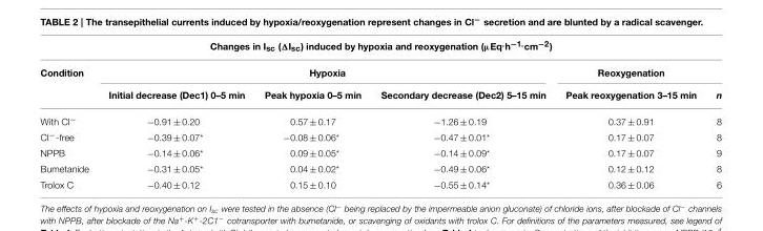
<table><thead><tr><td colspan="6">Changes in Isc (ΔIsc) induced by hypoxia and reoxygenation (µEq.h−1.cm−2)</td></tr><tr><td rowspan="2">Condition</td><td colspan="3">Hypoxia</td><td colspan="2">Reoxygenation</td></tr><tr><td>Initial decrease (Dec1) 0–5 min</td><td>Peak hypoxia 0–5 min</td><td>Secondary decrease (Dec2) 5–15 min</td><td>Peak reoxygenation 3–15 min</td><td>n</td></tr></thead><tbody><tr><td>With Cl<sup>−</sup></td><td>−0.91 ± 0.20</td><td>0.57 ± 0.17</td><td>−1.26 ± 0.19</td><td>0.37 ± 0.91</td><td>8</td></tr><tr><td>Cl<sup>−</sup>-free</td><td>−0.39 ± 0.07*</td><td>−0.08 ± 0.06*</td><td>−0.47 ± 0.01*</td><td>0.17 ± 0.07</td><td>8</td></tr><tr><td>NPPB</td><td>−0.14 ± 0.06*</td><td>0.09 ± 0.05*</td><td>−0.14 ± 0.09*</td><td>0.17 ± 0.07</td><td>9</td></tr><tr><td>Bumetanide</td><td>−0.31 ± 0.05*</td><td>0.04 ± 0.02*</td><td>−0.49 ± 0.06*</td><td>0.12 ± 0.12</td><td>8</td></tr><tr><td>Trolox C</td><td>−0.40 ± 0.12</td><td>0.15 ± 0.10</td><td>−0.55 ± 0.14*</td><td>0.36 ± 0.06</td><td>6</td></tr></tbody></table>